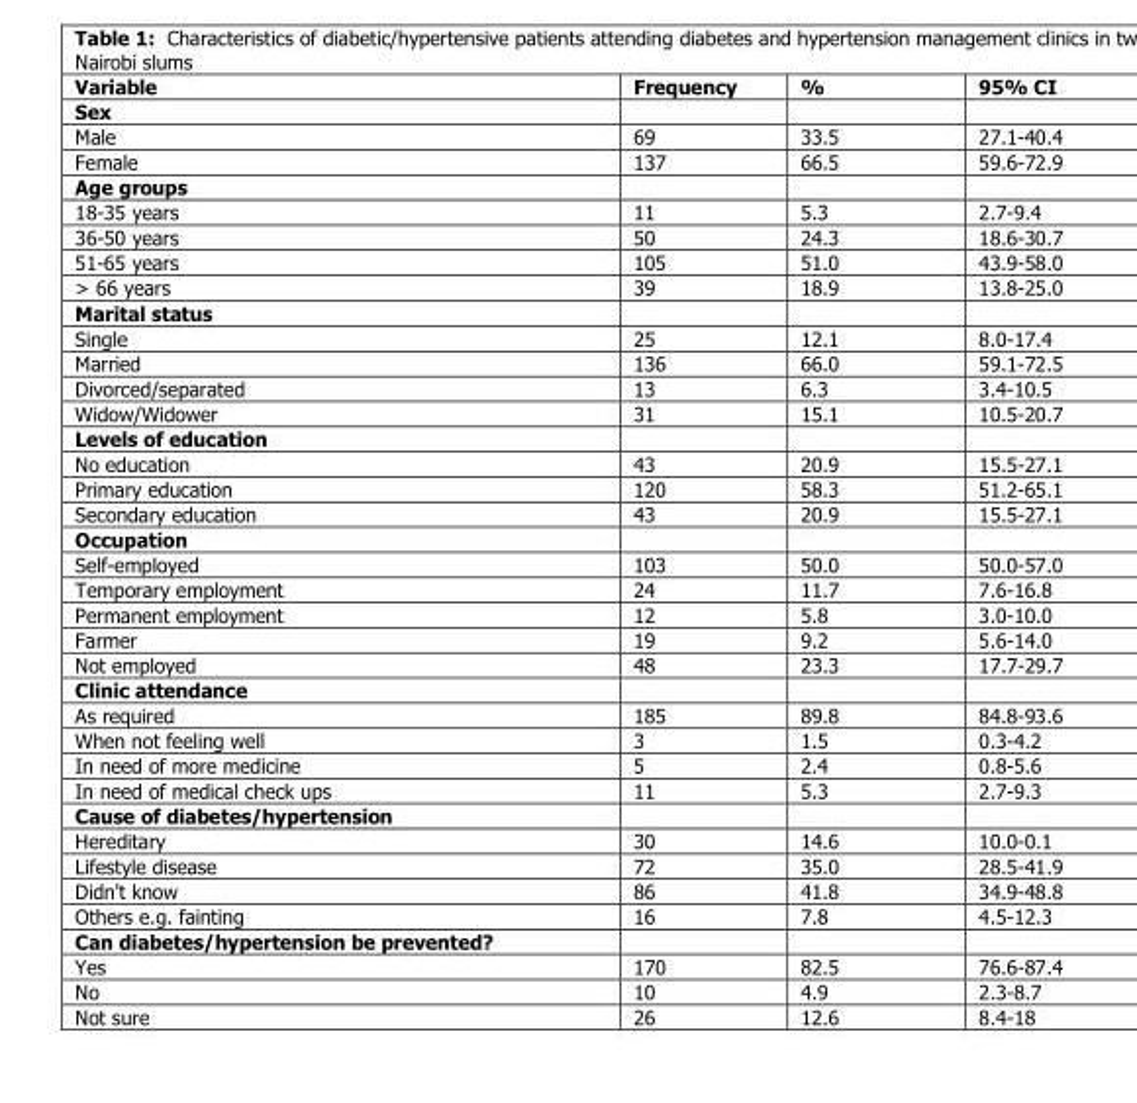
<table><thead><tr><td>Variable</td><td>Frequency</td><td>%</td><td>95% CI</td></tr></thead><tbody><tr><td colspan="4">Sex</td></tr><tr><td>Male</td><td>69</td><td>33.5</td><td>27.1-40.4</td></tr><tr><td>Female</td><td>137</td><td>66.5</td><td>59.6-72.9</td></tr><tr><td colspan="4">Age groups</td></tr><tr><td>18-35 years</td><td>11</td><td>5.3</td><td>2.7-9.4</td></tr><tr><td>36-50 years</td><td>50</td><td>24.3</td><td>18.6-30.7</td></tr><tr><td>51-65 years</td><td>105</td><td>51.0</td><td>43.9-58.0</td></tr><tr><td>&gt; 66 years</td><td>39</td><td>18.9</td><td>13.8-25.0</td></tr><tr><td colspan="4">Marital status</td></tr><tr><td>Single</td><td>25</td><td>12.1</td><td>8.0-17.4</td></tr><tr><td>Married</td><td>136</td><td>66.0</td><td>59.1-72.5</td></tr><tr><td>Divorced/separated</td><td>13</td><td>6.3</td><td>3.4-10.5</td></tr><tr><td>Widow/Widower</td><td>31</td><td>15.1</td><td>10.5-20.7</td></tr><tr><td colspan="4">Levels of education</td></tr><tr><td>No education</td><td>43</td><td>20.9</td><td>15.5-27.1</td></tr><tr><td>Primary education</td><td>120</td><td>58.3</td><td>51.2-65.1</td></tr><tr><td>Secondary education</td><td>43</td><td>20.9</td><td>15.5-27.1</td></tr><tr><td colspan="4">Occupation</td></tr><tr><td>Self-employed</td><td>103</td><td>50.0</td><td>50.0-57.0</td></tr><tr><td>Temporary employment</td><td>24</td><td>11.7</td><td>7.6-16.8</td></tr><tr><td>Permanent employment</td><td>12</td><td>5.8</td><td>3.0-10.0</td></tr><tr><td>Farmer</td><td>19</td><td>9.2</td><td>5.6-14.0</td></tr><tr><td>Not employed</td><td>48</td><td>23.3</td><td>17.7-29.7</td></tr><tr><td colspan="4">Clinic attendance</td></tr><tr><td>As required</td><td>185</td><td>89.8</td><td>84.8-93.6</td></tr><tr><td>When not feeling well</td><td>3</td><td>1.5</td><td>0.3-4.2</td></tr><tr><td>In need of more medicine</td><td>5</td><td>2.4</td><td>0.8-5.6</td></tr><tr><td>In need of medical check ups</td><td>11</td><td>5.3</td><td>2.7-9.3</td></tr><tr><td colspan="4">Cause of diabetes/hypertension</td></tr><tr><td>Hereditary</td><td>30</td><td>14.6</td><td>10.0-0.1</td></tr><tr><td>Lifestyle disease</td><td>72</td><td>35.0</td><td>28.5-41.9</td></tr><tr><td>Didn&#x27;t know</td><td>86</td><td>41.8</td><td>34.9-48.8</td></tr><tr><td>Others e.g. fainting</td><td>16</td><td>7.8</td><td>4.5-12.3</td></tr><tr><td colspan="4">Can diabetes/hypertension be prevented?</td></tr><tr><td>Yes</td><td>170</td><td>82.5</td><td>76.6-87.4</td></tr><tr><td>No</td><td>10</td><td>4.9</td><td>2.3-8.7</td></tr><tr><td>Not sure</td><td>26</td><td>12.6</td><td>8.4-18</td></tr></tbody></table>